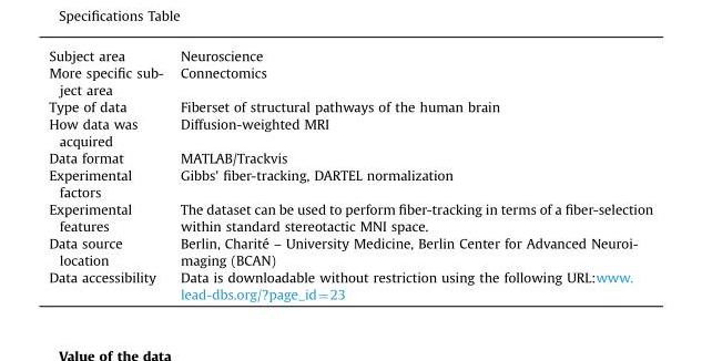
<table><tbody><tr><td>Subject area</td><td>Neuroscience</td></tr><tr><td>More specific sub- ject area</td><td>Connectomics</td></tr><tr><td>Type of data</td><td>Fiberset of structural pathways of the human brain</td></tr><tr><td>How data was acquired</td><td>Diffusion-weighted MRI</td></tr><tr><td>Data format</td><td>MATLAB/Trackvis</td></tr><tr><td>Experimental factors</td><td>Gibbs&#x27; fiber-tracking, DARTEL normalization</td></tr><tr><td>Experimental features</td><td>The dataset can be used to perform fiber-tracking in terms of a fiber-selection within standard stereotactic MNI space.</td></tr><tr><td>Data source location</td><td>Berlin, Charité – University Medicine, Berlin Center for Advanced Neuroi- maging (BCAN)</td></tr><tr><td>Data accessibility</td><td>Data is downloadable without restriction using the following URL:www. lead-dbs.org/?page_id=23</td></tr></tbody></table>